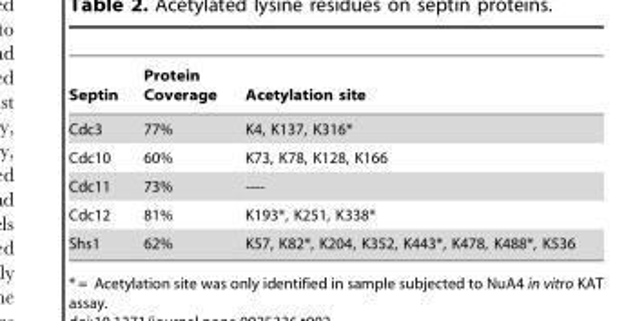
<table><thead><tr><td>Septin</td><td>Protein Coverage</td><td>Acetylation site</td></tr></thead><tbody><tr><td>Cdc3</td><td>77%</td><td>K4, K137, K316*</td></tr><tr><td>Cdc10</td><td>60%</td><td>K73, K78, K128, K166</td></tr><tr><td>Cdc11</td><td>73%</td><td>----</td></tr><tr><td>Cdc12</td><td>81%</td><td>K193*, K251, K338*</td></tr><tr><td>Shs1</td><td>62%</td><td>K57, K82*, K204, K352, K443*, K478, K488*, K536</td></tr></tbody></table>